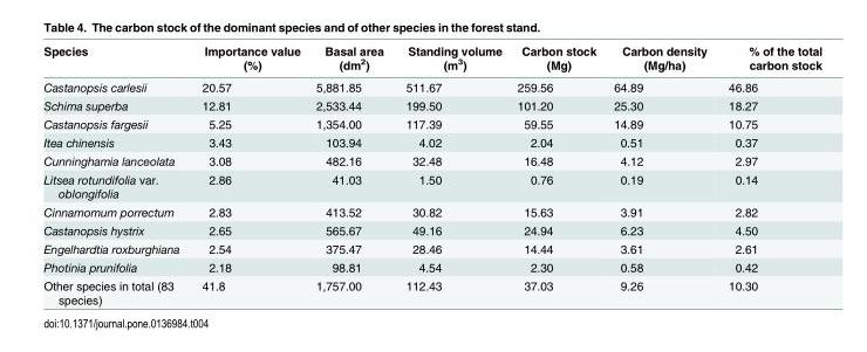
<table><thead><tr><td>Species</td><td>Importance value (%)</td><td>Basal area (dm<sup>2</sup>)</td><td>Standing volume (m<sup>3</sup>)</td><td>Carbon stock (Mg)</td><td>Carbon density (Mg/ha)</td><td>% of the total carbon stock</td></tr></thead><tbody><tr><td>Castanopsis carlesii</td><td>20.57</td><td>5,881.85</td><td>511.67</td><td>259.56</td><td>64.89</td><td>46.86</td></tr><tr><td>Schima superba</td><td>12.81</td><td>2,533.44</td><td>199.50</td><td>101.20</td><td>25.30</td><td>18.27</td></tr><tr><td>Castanopsis fargesii</td><td>5.25</td><td>1,354.00</td><td>117.39</td><td>59.55</td><td>14.89</td><td>10.75</td></tr><tr><td>Itea chinensis</td><td>3.43</td><td>103.94</td><td>4.02</td><td>2.04</td><td>0.51</td><td>0.37</td></tr><tr><td>Cunninghamia lanceolata</td><td>3.08</td><td>482.16</td><td>32.48</td><td>16.48</td><td>4.12</td><td>2.97</td></tr><tr><td>Litsea rotundifolia var. oblongifolia</td><td>2.86</td><td>41.03</td><td>1.50</td><td>0.76</td><td>0.19</td><td>0.14</td></tr><tr><td>Cinnamomum porrectum</td><td>2.83</td><td>413.52</td><td>30.82</td><td>15.63</td><td>3.91</td><td>2.82</td></tr><tr><td>Castanopsis hystrix</td><td>2.65</td><td>565.67</td><td>49.16</td><td>24.94</td><td>6.23</td><td>4.50</td></tr><tr><td>Engelhardtia roxburghiana</td><td>2.54</td><td>375.47</td><td>28.46</td><td>14.44</td><td>3.61</td><td>2.61</td></tr><tr><td>Photinia prunifolia</td><td>2.18</td><td>98.81</td><td>4.54</td><td>2.30</td><td>0.58</td><td>0.42</td></tr><tr><td>Other species in total (83 species)</td><td>41.8</td><td>1,757.00</td><td>112.43</td><td>37.03</td><td>9.26</td><td>10.30</td></tr></tbody></table>